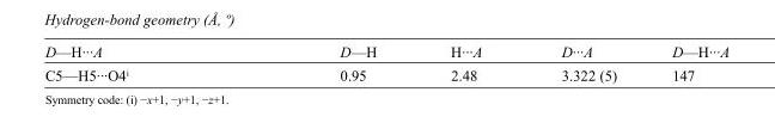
<table><tbody><tr><td>D—H···A</td><td>D—H</td><td>H···A</td><td>D···A</td><td>D—H···A</td></tr><tr><td>C5—H5···O4<sup>i</sup></td><td>0.95</td><td>2.48</td><td>3.322 (5)</td><td>147</td></tr></tbody></table>